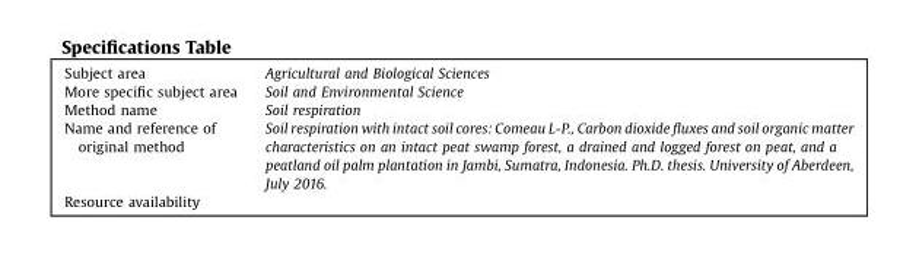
<table><tbody><tr><td>Subject area</td><td>Agricultural and Biological Sciences</td></tr><tr><td>More specific subject area</td><td>Soil and Environmental Science</td></tr><tr><td>Method name</td><td>Soil respiration</td></tr><tr><td>Name and reference of original method</td><td>Soil respiration with intact soil cores: Comeau L-P., Carbon dioxide fluxes and soil organic matter characteristics on an intact peat swamp forest, a drained and logged forest on peat, and a peatland oil palm plantation in Jambi, Sumatra, Indonesia. Ph.D. thesis. University of Aberdeen, July 2016.</td></tr><tr><td>Resource availability</td><td></td></tr></tbody></table>